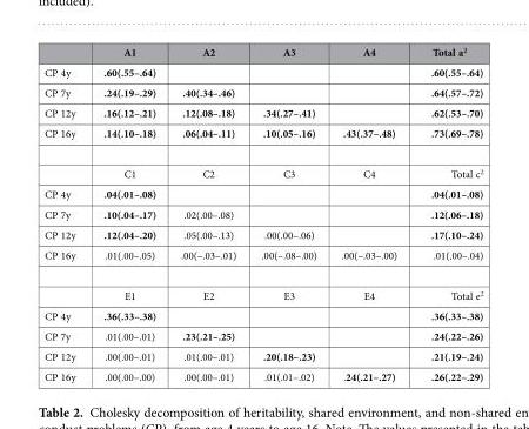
<table><thead><tr><td></td><td>A1</td><td>A2</td><td>A3</td><td>A4</td><td>Total a<sup>2</sup></td></tr></thead><tbody><tr><td>CP 4y</td><td>.60(.55–.64)</td><td></td><td></td><td></td><td>.60(.55–.64)</td></tr><tr><td>CP 7y</td><td>.24(.19–.29)</td><td>.40(.34–.46)</td><td></td><td></td><td>.64(.57–.72)</td></tr><tr><td>CP 12y</td><td>.16(.12–.21)</td><td>.12(.08–.18)</td><td>.34(.27–.41)</td><td></td><td>.62(.53–.70)</td></tr><tr><td rowspan="2">CP 16y</td><td>.14(.10–.18)</td><td>.06(.04–.11)</td><td>.10(.05–.16)</td><td>.43(.37–.48)</td><td>.73(.69–.78)</td></tr><tr><td>C1</td><td>C2</td><td>C3</td><td>C4</td><td>Total c<sup>2</sup></td></tr><tr><td>CP 4y</td><td>.04(.01–.08)</td><td></td><td></td><td></td><td>.04(.01–.08)</td></tr><tr><td>CP 7y</td><td>.10(.04–.17)</td><td>.02(.00–.08)</td><td></td><td></td><td>.12(.06–.18)</td></tr><tr><td>CP 12y</td><td>.12(.04–.20)</td><td>.05(.00–.13)</td><td>.00(.00–.06)</td><td></td><td>.17(.10–.24)</td></tr><tr><td rowspan="2">CP 16y</td><td>.01(.00–.05)</td><td>.00(–.03–.01)</td><td>.00(–.08–.00)</td><td>.00(–.03–.00)</td><td>.01(.00–.04)</td></tr><tr><td>E1</td><td>E2</td><td>E3</td><td>E4</td><td>Total e<sup>2</sup></td></tr><tr><td>CP 4y</td><td>.36(.33–.38)</td><td></td><td></td><td></td><td>.36(.33–.38)</td></tr><tr><td>CP 7y</td><td>.01(.00–.01)</td><td>.23(.21–.25)</td><td></td><td></td><td>.24(.22–.26)</td></tr><tr><td>CP 12y</td><td>.00(.00–.01)</td><td>.01(.00–.01)</td><td>.20(.18–.23)</td><td></td><td>.21(.19–.24)</td></tr><tr><td>CP 16y</td><td>.00(.00–.00)</td><td>.00(.00–.01)</td><td>.01(.01–.02)</td><td>.24(.21–.27)</td><td>.26(.22–.29)</td></tr></tbody></table>